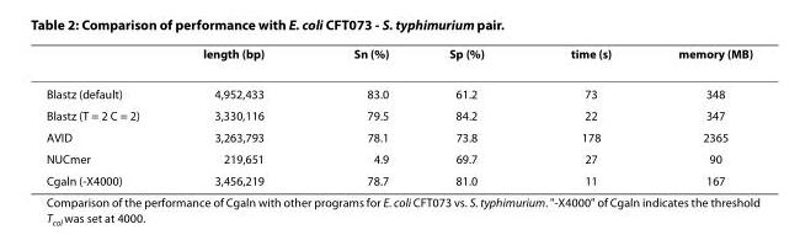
<table><thead><tr><td></td><td>length (bp)</td><td>Sn (%)</td><td>Sp (%)</td><td>time (s)</td><td>memory (MB)</td></tr></thead><tbody><tr><td>Blastz (default)</td><td>4,952,433</td><td>83.0</td><td>61.2</td><td>73</td><td>348</td></tr><tr><td>Blastz (T = 2 C = 2)</td><td>3,330,116</td><td>79.5</td><td>84.2</td><td>22</td><td>347</td></tr><tr><td>AVID</td><td>3,263,793</td><td>78.1</td><td>73.8</td><td>178</td><td>2365</td></tr><tr><td>NUCmer</td><td>219,651</td><td>4.9</td><td>69.7</td><td>27</td><td>90</td></tr><tr><td>Cgaln (-X4000)</td><td>3,456,219</td><td>78.7</td><td>81.0</td><td>11</td><td>167</td></tr></tbody></table>